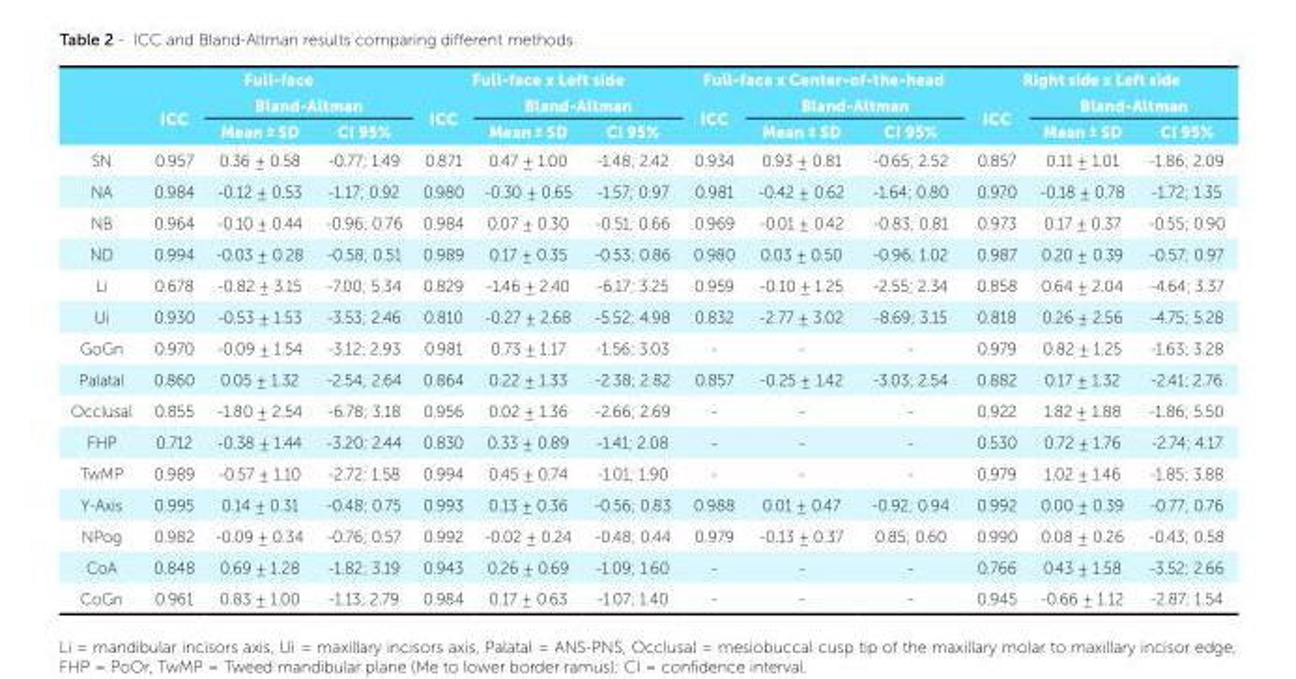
<table><thead><tr><td rowspan="3"></td><td colspan="3">Full-face</td><td colspan="3">Full-face x Left side</td><td colspan="3">Full-face x Center-of-the-head</td><td colspan="3">Right side x Left side</td></tr><tr><td rowspan="2">ICC</td><td colspan="2">Bland-Altman</td><td rowspan="2">ICC</td><td colspan="2">Bland-Altman</td><td rowspan="2">ICC</td><td colspan="2">Bland-Altman</td><td rowspan="2">ICC</td><td colspan="2">Bland-Altman</td></tr><tr><td>Mean ± SD</td><td>CI 95%</td><td>Mean ± SD</td><td>CI 95%</td><td>Mean ± SD</td><td>CI 95%</td><td>Mean ± SD</td><td>CI 95%</td></tr></thead><tbody><tr><td>SN</td><td>0.957</td><td>0.36 ± 0.58</td><td>-0.77; 1.49</td><td>0.871</td><td>0.47 ± 1.00</td><td>-1.48; 2.42</td><td>0.934</td><td>0.93 ± 0.81</td><td>-0.65; 2.52</td><td>0.857</td><td>0.11 ± 1.01</td><td>-1.86; 2.09</td></tr><tr><td>NA</td><td>0.984</td><td>-0.12 ± 0.53</td><td>-1.17; 0.92</td><td>0.980</td><td>-0.30 ± 0.65</td><td>-1.57; 0.97</td><td>0.981</td><td>-0.42 ± 0.62</td><td>-1.64; 0.80</td><td>0.970</td><td>-0.18 ± 0.78</td><td>-1.72; 1.35</td></tr><tr><td>NB</td><td>0.964</td><td>-0.10 ± 0.44</td><td>-0.96; 0.76</td><td>0.984</td><td>0.07 ± 0.30</td><td>-0.51; 0.66</td><td>0.969</td><td>-0.01 ± 0.42</td><td>-0.83; 0.81</td><td>0.973</td><td>0.17 ± 0.37</td><td>-0.55; 0.90</td></tr><tr><td>ND</td><td>0.994</td><td>-0.03 ± 0.28</td><td>-0.58; 0.51</td><td>0.989</td><td>0.17 ± 0.35</td><td>-0.53; 0.86</td><td>0.980</td><td>0.03 ± 0.50</td><td>-0.96; 1.02</td><td>0.987</td><td>0.20 ± 0.39</td><td>-0.57; 0.97</td></tr><tr><td>Li</td><td>0.678</td><td>-0.82 ± 3.15</td><td>-7.00; 5.34</td><td>0.829</td><td>-1.46 ± 2.40</td><td>-6.17; 3.25</td><td>0.959</td><td>-0.10 ± 1.25</td><td>-2.55; 2.34</td><td>0.858</td><td>0.64 ± 2.04</td><td>-4.64; 3.37</td></tr><tr><td>Ui</td><td>0.930</td><td>-0.53 ± 1.53</td><td>-3.53; 2.46</td><td>0.810</td><td>-0.27 ± 2.68</td><td>-5.52; 4.98</td><td>0.832</td><td>-2.77 ± 3.02</td><td>-8.69; 3.15</td><td>0.818</td><td>0.26 ± 2.56</td><td>-4.75; 5.28</td></tr><tr><td>GoGn</td><td>0.970</td><td>-0.09 ± 1.54</td><td>-3.12; 2.93</td><td>0.981</td><td>0.73 ± 1.17</td><td>-1.56; 3.03</td><td>-</td><td>-</td><td>-</td><td>0.979</td><td>0.82 ± 1.25</td><td>-1.63; 3.28</td></tr><tr><td>Palatal</td><td>0.860</td><td>0.05 ± 1.32</td><td>-2.54; 2.64</td><td>0.864</td><td>0.22 ± 1.33</td><td>-2.38; 2.82</td><td>0.857</td><td>-0.25 ± 1.42</td><td>-3.03; 2.54</td><td>0.882</td><td>0.17 ± 1.32</td><td>-2.41; 2.76</td></tr><tr><td>Occlusal</td><td>0.855</td><td>-1.80 ± 2.54</td><td>-6.78; 3.18</td><td>0.956</td><td>0.02 ± 1.36</td><td>-2.66; 2.69</td><td>-</td><td>-</td><td>-</td><td>0.922</td><td>1.82 ± 1.88</td><td>-1.86; 5.50</td></tr><tr><td>FHP</td><td>0.712</td><td>-0.38 ± 1.44</td><td>-3.20; 2.44</td><td>0.830</td><td>0.33 ± 0.89</td><td>-1.41; 2.08</td><td>-</td><td>-</td><td>-</td><td>0.530</td><td>0.72 ± 1.76</td><td>-2.74; 4.17</td></tr><tr><td>TwMP</td><td>0.989</td><td>-0.57 ± 1.10</td><td>-2.72; 1.58</td><td>0.994</td><td>0.45 ± 0.74</td><td>-1.01; 1.90</td><td>-</td><td>-</td><td>-</td><td>0.979</td><td>1.02 ± 1.46</td><td>-1.85; 3.88</td></tr><tr><td>Y-Axis</td><td>0.995</td><td>0.14 ± 0.31</td><td>-0.48; 0.75</td><td>0.993</td><td>0.13 ± 0.36</td><td>-0.56; 0.83</td><td>0.988</td><td>0.01 ± 0.47</td><td>-0.92; 0.94</td><td>0.992</td><td>0.00 ± 0.39</td><td>-0.77; 0.76</td></tr><tr><td>NPog</td><td>0.982</td><td>-0.09 ± 0.34</td><td>-0.76; 0.57</td><td>0.992</td><td>-0.02 ± 0.24</td><td>-0.48; 0.44</td><td>0.979</td><td>-0.13 ± 0.37</td><td>0.85; 0.60</td><td>0.990</td><td>0.08 ± 0.26</td><td>-0.43; 0.58</td></tr><tr><td>CoA</td><td>0.848</td><td>0.69 ± 1.28</td><td>-1.82; 3.19</td><td>0.943</td><td>0.26 ± 0.69</td><td>-1.09; 1.60</td><td>-</td><td>-</td><td>-</td><td>0.766</td><td>0.43 ± 1.58</td><td>-3.52; 2.66</td></tr><tr><td>CoGn</td><td>0.961</td><td>0.83 ± 1.00</td><td>-1.13; 2.79</td><td>0.984</td><td>0.17 ± 0.63</td><td>-1.07; 1.40</td><td>-</td><td>-</td><td>-</td><td>0.945</td><td>-0.66 ± 1.12</td><td>-2.87; 1.54</td></tr></tbody></table>